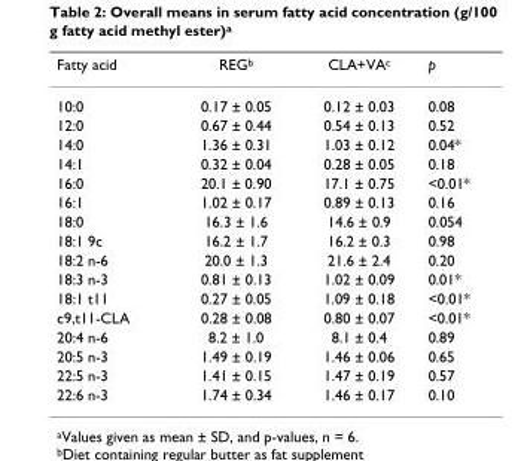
<table><thead><tr><td>Fatty acid</td><td>REG<sup>b</sup></td><td>CLA+VA<sup>c</sup></td><td>p</td></tr></thead><tbody><tr><td>10:0</td><td>0.17 ± 0.05</td><td>0.12 ± 0.03</td><td>0.08</td></tr><tr><td>12:0</td><td>0.67 ± 0.44</td><td>0.54 ± 0.13</td><td>0.52</td></tr><tr><td>14:0</td><td>1.36 ± 0.31</td><td>1.03 ± 0.12</td><td>0.04*</td></tr><tr><td>14:1</td><td>0.32 ± 0.04</td><td>0.28 ± 0.05</td><td>0.18</td></tr><tr><td>16:0</td><td>20.1 ± 0.90</td><td>17.1 ± 0.75</td><td>&lt;0.01*</td></tr><tr><td>16:1</td><td>1.02 ± 0.17</td><td>0.89 ± 0.13</td><td>0.16</td></tr><tr><td>18:0</td><td>16.3 ± 1.6</td><td>14.6 ± 0.9</td><td>0.054</td></tr><tr><td>18:1 9c</td><td>16.2 ± 1.7</td><td>16.2 ± 0.3</td><td>0.98</td></tr><tr><td>18:2 n-6</td><td>20.0 ± 1.3</td><td>21.6 ± 2.4</td><td>0.20</td></tr><tr><td>18:3 n-3</td><td>0.81 ± 0.13</td><td>1.02 ± 0.09</td><td>0.01*</td></tr><tr><td>18:1 t11</td><td>0.27 ± 0.05</td><td>1.09 ± 0.18</td><td>&lt;0.01*</td></tr><tr><td>c9,t11-CLA</td><td>0.28 ± 0.08</td><td>0.80 ± 0.07</td><td>&lt;0.01*</td></tr><tr><td>20:4 n-6</td><td>8.2 ± 1.0</td><td>8.1 ± 0.4</td><td>0.89</td></tr><tr><td>20:5 n-3</td><td>1.49 ± 0.19</td><td>1.46 ± 0.06</td><td>0.65</td></tr><tr><td>22:5 n-3</td><td>1.41 ± 0.15</td><td>1.47 ± 0.19</td><td>0.57</td></tr><tr><td>22:6 n-3</td><td>1.74 ± 0.34</td><td>1.46 ± 0.17</td><td>0.10</td></tr></tbody></table>